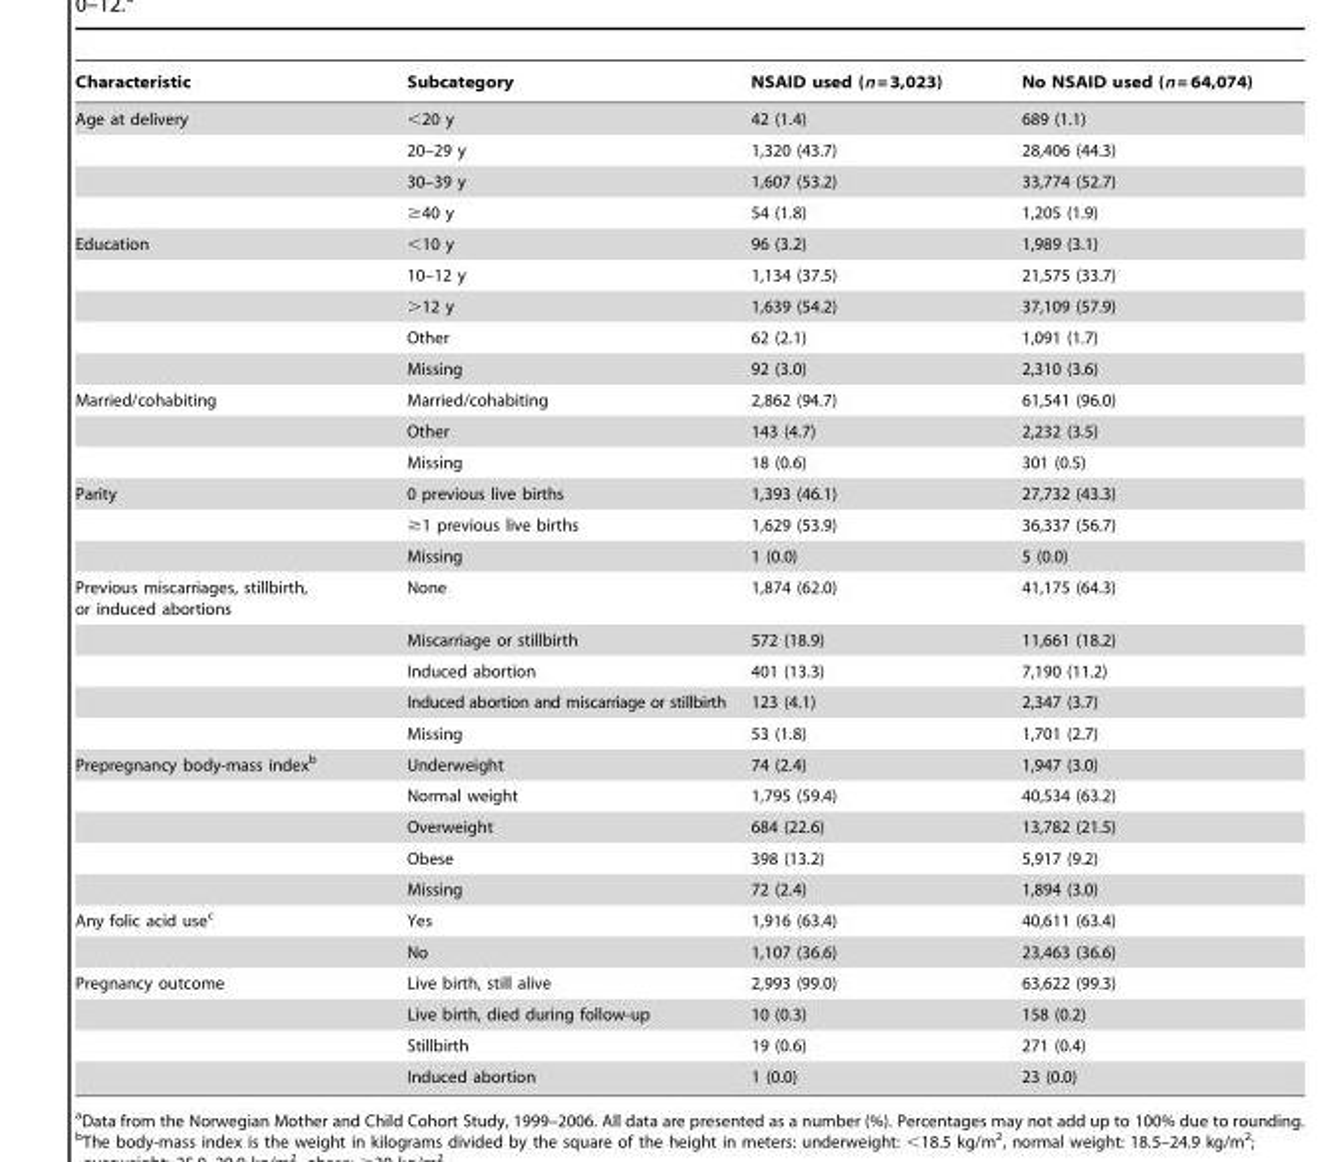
<table><thead><tr><td>Characteristic</td><td>Subcategory</td><td>NSAID used (n = 3,023)</td><td>No NSAID used (n = 64,074)</td></tr></thead><tbody><tr><td rowspan="4">Age at delivery</td><td>&lt;20 y</td><td>42 (1.4)</td><td>689 (1.1)</td></tr><tr><td>20–29 y</td><td>1,320 (43.7)</td><td>28,406 (44.3)</td></tr><tr><td>30–39 y</td><td>1,607 (53.2)</td><td>33,774 (52.7)</td></tr><tr><td>≥40 y</td><td>54 (1.8)</td><td>1,205 (1.9)</td></tr><tr><td rowspan="5">Education</td><td>&lt;10 y</td><td>96 (3.2)</td><td>1,989 (3.1)</td></tr><tr><td>10–12 y</td><td>1,134 (37.5)</td><td>21,575 (33.7)</td></tr><tr><td>&gt;12 y</td><td>1,639 (54.2)</td><td>37,109 (57.9)</td></tr><tr><td>Other</td><td>62 (2.1)</td><td>1,091 (1.7)</td></tr><tr><td>Missing</td><td>92 (3.0)</td><td>2,310 (3.6)</td></tr><tr><td rowspan="3">Married/cohabiting</td><td>Married/cohabiting</td><td>2,862 (94.7)</td><td>61,541 (96.0)</td></tr><tr><td>Other</td><td>143 (4.7)</td><td>2,232 (3.5)</td></tr><tr><td>Missing</td><td>18 (0.6)</td><td>301 (0.5)</td></tr><tr><td rowspan="3">Parity</td><td>0 previous live births</td><td>1,393 (46.1)</td><td>27,732 (43.3)</td></tr><tr><td>≥1 previous live births</td><td>1,629 (53.9)</td><td>36,337 (56.7)</td></tr><tr><td>Missing</td><td>1 (0.0)</td><td>5 (0.0)</td></tr><tr><td rowspan="5">Previous miscarriages, stillbirth, or induced abortions</td><td>None</td><td>1,874 (62.0)</td><td>41,175 (64.3)</td></tr><tr><td>Miscarriage or stillbirth</td><td>572 (18.9)</td><td>11,661 (18.2)</td></tr><tr><td>Induced abortion</td><td>401 (13.3)</td><td>7,190 (11.2)</td></tr><tr><td>Induced abortion and miscarriage or stillbirth</td><td>123 (4.1)</td><td>2,347 (3.7)</td></tr><tr><td>Missing</td><td>53 (1.8)</td><td>1,701 (2.7)</td></tr><tr><td rowspan="5">Prepregnancy body-mass index<sup>b</sup></td><td>Underweight</td><td>74 (2.4)</td><td>1,947 (3.0)</td></tr><tr><td>Normal weight</td><td>1,795 (59.4)</td><td>40,534 (63.2)</td></tr><tr><td>Overweight</td><td>684 (22.6)</td><td>13,782 (21.5)</td></tr><tr><td>Obese</td><td>398 (13.2)</td><td>5,917 (9.2)</td></tr><tr><td>Missing</td><td>72 (2.4)</td><td>1,894 (3.0)</td></tr><tr><td rowspan="2">Any folic acid use<sup>c</sup></td><td>Yes</td><td>1,916 (63.4)</td><td>40,611 (63.4)</td></tr><tr><td>No</td><td>1,107 (36.6)</td><td>23,463 (36.6)</td></tr><tr><td rowspan="4">Pregnancy outcome</td><td>Live birth, still alive</td><td>2,993 (99.0)</td><td>63,622 (99.3)</td></tr><tr><td>Live birth, died during follow-up</td><td>10 (0.3)</td><td>158 (0.2)</td></tr><tr><td>Stillbirth</td><td>19 (0.6)</td><td>271 (0.4)</td></tr><tr><td>Induced abortion</td><td>1 (0.0)</td><td>23 (0.0)</td></tr></tbody></table>